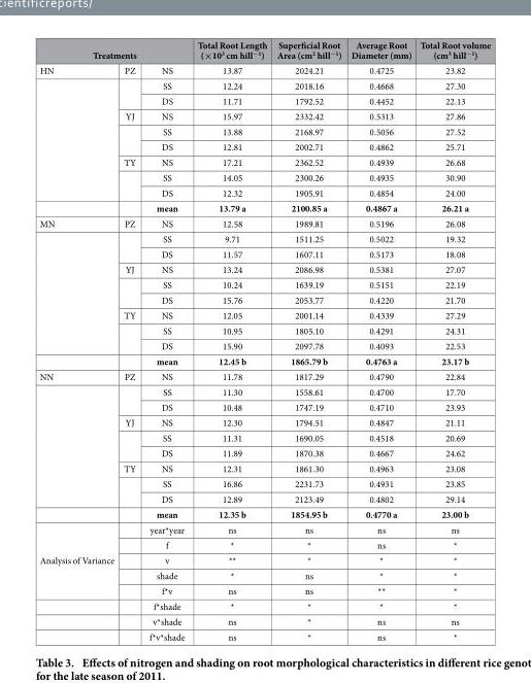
<table><thead><tr><td colspan="3">Treatments</td><td rowspan="2">Total Root Length (×10<sup>3</sup> cm hill<sup>−1</sup>) 13.87</td><td rowspan="2">Superficial Root Area (cm<sup>2</sup> hill<sup>−1</sup>) 2024.21</td><td rowspan="2">Average Root Diameter (mm) 0.4725</td><td rowspan="2">Total Root volume (cm<sup>3</sup> hill<sup>−1</sup>) 23.82</td></tr><tr><td>HN</td><td>PZ</td><td>NS</td></tr></thead><tbody><tr><td rowspan="8"></td><td rowspan="2"></td><td>SS</td><td>12.24</td><td>2018.16</td><td>0.4668</td><td>27.30</td></tr><tr><td>DS</td><td>11.71</td><td>1792.52</td><td>0.4452</td><td>22.13</td></tr><tr><td>YJ</td><td>NS</td><td>15.97</td><td>2332.42</td><td>0.5313</td><td>27.86</td></tr><tr><td rowspan="2"></td><td>SS</td><td>13.88</td><td>2168.97</td><td>0.5056</td><td>27.52</td></tr><tr><td>DS</td><td>12.81</td><td>2002.71</td><td>0.4862</td><td>25.71</td></tr><tr><td>TY</td><td>NS</td><td>17.21</td><td>2362.52</td><td>0.4939</td><td>26.68</td></tr><tr><td rowspan="2"></td><td>SS</td><td>14.05</td><td>2300.26</td><td>0.4935</td><td>30.90</td></tr><tr><td>DS</td><td>12.32</td><td>1905.91</td><td>0.4854</td><td>24.00</td></tr><tr><td></td><td></td><td>mean</td><td>13.79 a</td><td>2100.85 a</td><td>0.4867 a</td><td>26.21 a</td></tr><tr><td rowspan="10">MN</td><td>PZ</td><td>NS</td><td>12.58</td><td>1989.81</td><td>0.5196</td><td>26.08</td></tr><tr><td rowspan="2"></td><td>SS</td><td>9.71</td><td>1511.25</td><td>0.5022</td><td>19.32</td></tr><tr><td>DS</td><td>11.57</td><td>1607.11</td><td>0.5173</td><td>18.08</td></tr><tr><td>YJ</td><td>NS</td><td>13.24</td><td>2086.98</td><td>0.5381</td><td>27.07</td></tr><tr><td rowspan="2"></td><td>SS</td><td>10.24</td><td>1639.19</td><td>0.5151</td><td>22.19</td></tr><tr><td>DS</td><td>15.76</td><td>2053.77</td><td>0.4220</td><td>21.70</td></tr><tr><td>TY</td><td>NS</td><td>12.05</td><td>2001.14</td><td>0.4339</td><td>27.29</td></tr><tr><td rowspan="2"></td><td>SS</td><td>10.95</td><td>1805.10</td><td>0.4291</td><td>24.31</td></tr><tr><td>DS</td><td>15.90</td><td>2097.78</td><td>0.4093</td><td>22.53</td></tr><tr><td></td><td>mean</td><td>12.45 b</td><td>1865.79 b</td><td>0.4763 a</td><td>23.17 b</td></tr><tr><td rowspan="10">NN</td><td>PZ</td><td>NS</td><td>11.78</td><td>1817.29</td><td>0.4790</td><td>22.84</td></tr><tr><td rowspan="2"></td><td>SS</td><td>11.30</td><td>1558.61</td><td>0.4700</td><td>17.70</td></tr><tr><td>DS</td><td>10.48</td><td>1747.19</td><td>0.4710</td><td>23.93</td></tr><tr><td>YJ</td><td>NS</td><td>12.30</td><td>1794.51</td><td>0.4847</td><td>21.11</td></tr><tr><td rowspan="2"></td><td>SS</td><td>11.31</td><td>1690.05</td><td>0.4518</td><td>20.69</td></tr><tr><td>DS</td><td>11.89</td><td>1870.38</td><td>0.4667</td><td>24.62</td></tr><tr><td>TY</td><td>NS</td><td>12.31</td><td>1861.30</td><td>0.4963</td><td>23.08</td></tr><tr><td rowspan="2"></td><td>SS</td><td>16.86</td><td>2231.73</td><td>0.4931</td><td>23.85</td></tr><tr><td>DS</td><td>12.89</td><td>2123.49</td><td>0.4802</td><td>29.14</td></tr><tr><td></td><td>mean</td><td>12.35 b</td><td>1854.95 b</td><td>0.4770 a</td><td>23.00 b</td></tr><tr><td rowspan="8">Analysis of Variance</td><td></td><td>year*year</td><td>ns</td><td>ns</td><td>ns</td><td>ns</td></tr><tr><td></td><td>f</td><td>*</td><td>*</td><td>ns</td><td>*</td></tr><tr><td></td><td>v</td><td>**</td><td>*</td><td>*</td><td>*</td></tr><tr><td></td><td>shade</td><td>*</td><td>ns</td><td>*</td><td>*</td></tr><tr><td></td><td>f*v</td><td>ns</td><td>ns</td><td>**</td><td>*</td></tr><tr><td></td><td>f*shade</td><td>*</td><td>*</td><td>*</td><td>*</td></tr><tr><td></td><td>v*shade</td><td>ns</td><td>*</td><td>ns</td><td>ns</td></tr><tr><td></td><td>f*v*shade</td><td>ns</td><td>*</td><td>ns</td><td>*</td></tr></tbody></table>